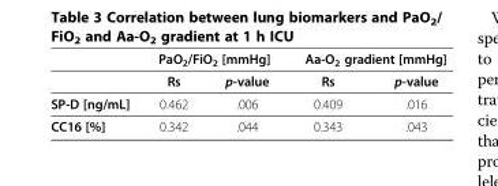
<table><thead><tr><td rowspan="2"></td><td colspan="2">PaO<sub>2</sub>/FiO<sub>2</sub> [mmHg]</td><td colspan="2">Aa-O<sub>2</sub> gradient [mmHg]</td></tr><tr><td>Rs</td><td>p-value</td><td>Rs</td><td>p-value</td></tr></thead><tbody><tr><td>SP-D [ng/mL]</td><td>0.462</td><td>.006</td><td>0.409</td><td>.016</td></tr><tr><td>CC16 [%]</td><td>0.342</td><td>.044</td><td>0.343</td><td>.043</td></tr></tbody></table>